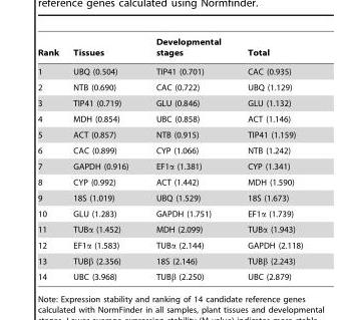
<table><thead><tr><td>Rank</td><td>Tissues</td><td>Developmental stages</td><td>Total</td></tr></thead><tbody><tr><td>1</td><td>UBQ (0.504)</td><td>TIP41 (0.701)</td><td>CAC (0.935)</td></tr><tr><td>2</td><td>NTB (0.690)</td><td>CAC (0.722)</td><td>UBQ (1.129)</td></tr><tr><td>3</td><td>TIP41 (0.719)</td><td>GLU (0.846)</td><td>GLU (1.132)</td></tr><tr><td>4</td><td>MDH (0.854)</td><td>UBC (0.858)</td><td>ACT (1.146)</td></tr><tr><td>5</td><td>ACT (0.857)</td><td>NTB (0.915)</td><td>TIP41 (1.159)</td></tr><tr><td>6</td><td>CAC (0.899)</td><td>CYP (1.066)</td><td>NTB (1.242)</td></tr><tr><td>7</td><td>GAPDH (0.916)</td><td>EF1α (1.381)</td><td>CYP (1.341)</td></tr><tr><td>8</td><td>CYP (0.992)</td><td>ACT (1.442)</td><td>MDH (1.590)</td></tr><tr><td>9</td><td>18S (1.019)</td><td>UBQ (1.529)</td><td>18S (1.673)</td></tr><tr><td>10</td><td>GLU (1.283)</td><td>GAPDH (1.751)</td><td>EF1α (1.739)</td></tr><tr><td>11</td><td>TUBα (1.452)</td><td>MDH (2.099)</td><td>TUBα (1.943)</td></tr><tr><td>12</td><td>EF1α (1.583)</td><td>TUBα (2.144)</td><td>GAPDH (2.118)</td></tr><tr><td>13</td><td>TUBβ (2.356)</td><td>18S (2.146)</td><td>TUBβ (2.243)</td></tr><tr><td>14</td><td>UBC (3.968)</td><td>TUBβ (2.250)</td><td>UBC (2.879)</td></tr></tbody></table>